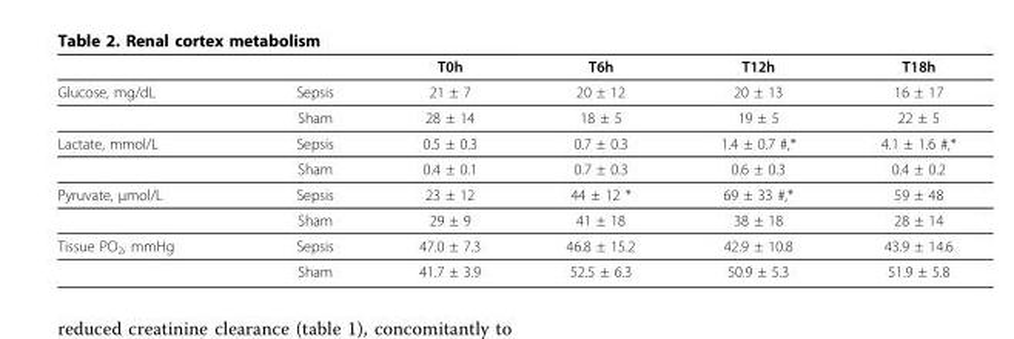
<table><thead><tr><td></td><td></td><td>T0h</td><td>T6h</td><td>T12h</td><td>T18h</td></tr></thead><tbody><tr><td rowspan="2">Glucose, mg/dL</td><td>Sepsis</td><td>21 ± 7</td><td>20 ± 12</td><td>20 ± 13</td><td>16 ± 17</td></tr><tr><td>Sham</td><td>28 ± 14</td><td>18 ± 5</td><td>19 ± 5</td><td>22 ± 5</td></tr><tr><td rowspan="2">Lactate, mmol/L</td><td>Sepsis</td><td>0.5 ± 0.3</td><td>0.7 ± 0.3</td><td>1.4 ± 0.7 #,*</td><td>4.1 ± 1.6 #,*</td></tr><tr><td>Sham</td><td>0.4 ± 0.1</td><td>0.7 ± 0.3</td><td>0.6 ± 0.3</td><td>0.4 ± 0.2</td></tr><tr><td rowspan="2">Pyruvate, μmol/L</td><td>Sepsis</td><td>23 ± 12</td><td>44 ± 12 *</td><td>69 ± 33 #,*</td><td>59 ± 48</td></tr><tr><td>Sham</td><td>29 ± 9</td><td>41 ± 18</td><td>38 ± 18</td><td>28 ± 14</td></tr><tr><td rowspan="2">Tissue PO<sub>2</sub>, mmHg</td><td>Sepsis</td><td>47.0 ± 7.3</td><td>46.8 ± 15.2</td><td>42.9 ± 10.8</td><td>43.9 ± 14.6</td></tr><tr><td>Sham</td><td>41.7 ± 3.9</td><td>52.5 ± 6.3</td><td>50.9 ± 5.3</td><td>51.9 ± 5.8</td></tr></tbody></table>